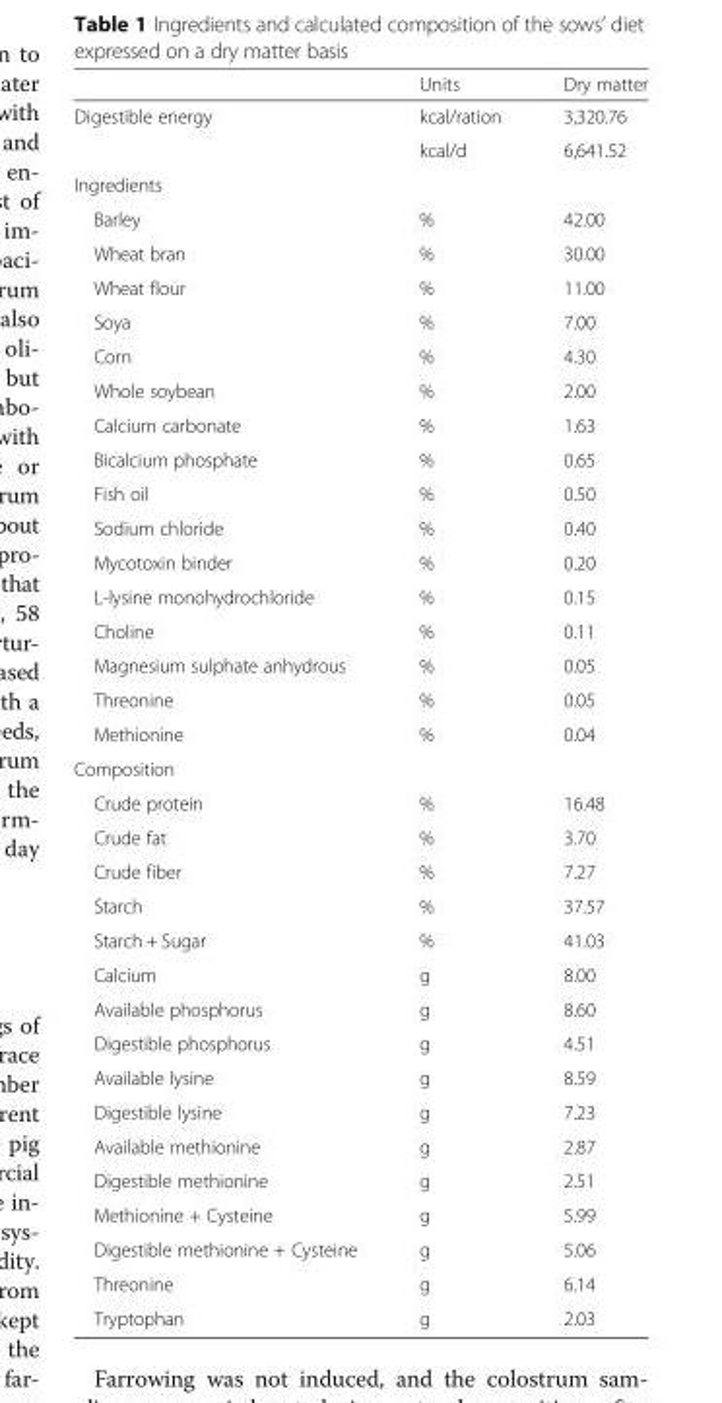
<table><thead><tr><td></td><td>Units</td><td>Dry matter</td></tr></thead><tbody><tr><td rowspan="2">Digestible energy</td><td>kcal/ration</td><td>3,320.76</td></tr><tr><td>kcal/d</td><td>6,641.52</td></tr><tr><td colspan="3">Ingredients</td></tr><tr><td>Barley</td><td>%</td><td>42.00</td></tr><tr><td>Wheat bran</td><td>%</td><td>30.00</td></tr><tr><td>Wheat flour</td><td>%</td><td>11.00</td></tr><tr><td>Soya</td><td>%</td><td>7.00</td></tr><tr><td>Corn</td><td>%</td><td>4.30</td></tr><tr><td>Whole soybean</td><td>%</td><td>2.00</td></tr><tr><td>Calcium carbonate</td><td>%</td><td>1.63</td></tr><tr><td>Bicalcium phosphate</td><td>%</td><td>0.65</td></tr><tr><td>Fish oil</td><td>%</td><td>0.50</td></tr><tr><td>Sodium chloride</td><td>%</td><td>0.40</td></tr><tr><td>Mycotoxin binder</td><td>%</td><td>0.20</td></tr><tr><td>L-lysine monohydrochloride</td><td>%</td><td>0.15</td></tr><tr><td>Choline</td><td>%</td><td>0.11</td></tr><tr><td>Magnesium sulphate anhydrous</td><td>%</td><td>0.05</td></tr><tr><td>Threonine</td><td>%</td><td>0.05</td></tr><tr><td>Methionine</td><td>%</td><td>0.04</td></tr><tr><td colspan="3">Composition</td></tr><tr><td>Crude protein</td><td>%</td><td>16.48</td></tr><tr><td>Crude fat</td><td>%</td><td>3.70</td></tr><tr><td>Crude fiber</td><td>%</td><td>7.27</td></tr><tr><td>Starch</td><td>%</td><td>37.57</td></tr><tr><td>Starch + Sugar</td><td>%</td><td>41.03</td></tr><tr><td>Calcium</td><td>g</td><td>8.00</td></tr><tr><td>Available phosphorus</td><td>g</td><td>8.60</td></tr><tr><td>Digestible phosphorus</td><td>g</td><td>4.51</td></tr><tr><td>Available lysine</td><td>g</td><td>8.59</td></tr><tr><td>Digestible lysine</td><td>g</td><td>7.23</td></tr><tr><td>Available methionine</td><td>g</td><td>2.87</td></tr><tr><td>Digestible methionine</td><td>g</td><td>2.51</td></tr><tr><td>Methionine + Cysteine</td><td>g</td><td>5.99</td></tr><tr><td>Digestible methionine + Cysteine</td><td>g</td><td>5.06</td></tr><tr><td>Threonine</td><td>g</td><td>6.14</td></tr><tr><td>Tryptophan</td><td>g</td><td>2.03</td></tr></tbody></table>